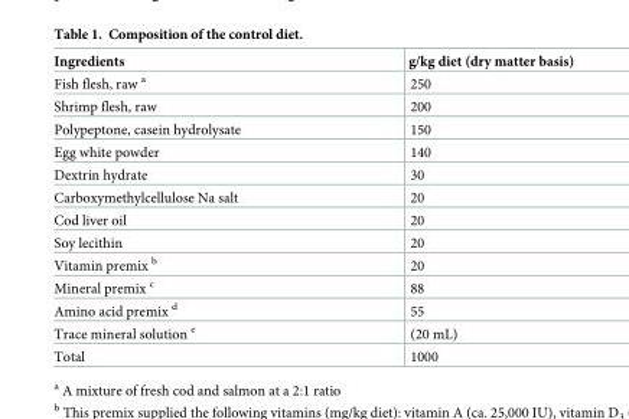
<table><thead><tr><td>Ingredients</td><td>g/kg diet (dry matter basis)</td></tr></thead><tbody><tr><td>Fish flesh, raw <sup>a</sup></td><td>250</td></tr><tr><td>Shrimp flesh, raw</td><td>200</td></tr><tr><td>Polypeptone, casein hydrolysate</td><td>150</td></tr><tr><td>Egg white powder</td><td>140</td></tr><tr><td>Dextrin hydrate</td><td>30</td></tr><tr><td>Carboxymethylcellulose Na salt</td><td>20</td></tr><tr><td>Cod liver oil</td><td>20</td></tr><tr><td>Soy lecithin</td><td>20</td></tr><tr><td>Vitamin premix <sup>b</sup></td><td>20</td></tr><tr><td>Mineral premix <sup>c</sup></td><td>88</td></tr><tr><td>Amino acid premix <sup>d</sup></td><td>55</td></tr><tr><td>Trace mineral solution <sup>e</sup></td><td>(20 mL)</td></tr><tr><td>Total</td><td>1000</td></tr></tbody></table>